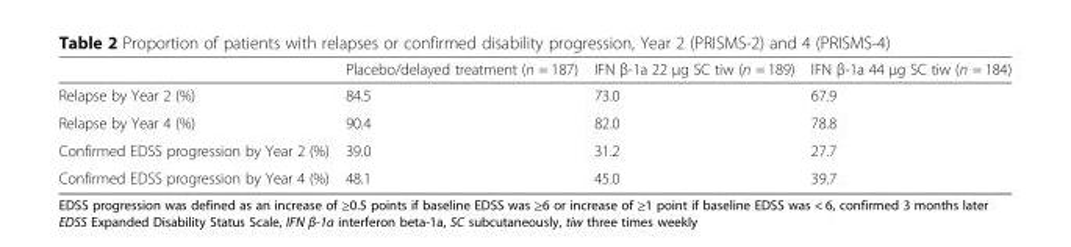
<table><thead><tr><td></td><td>Placebo/delayed treatment (n = 187)</td><td>IFN β-1a 22 μg SC tiw (n = 189)</td><td>IFN β-1a 44 μg SC tiw (n = 184)</td></tr></thead><tbody><tr><td>Relapse by Year 2 (%)</td><td>84.5</td><td>73.0</td><td>67.9</td></tr><tr><td>Relapse by Year 4 (%)</td><td>90.4</td><td>82.0</td><td>78.8</td></tr><tr><td>Confirmed EDSS progression by Year 2 (%)</td><td>39.0</td><td>31.2</td><td>27.7</td></tr><tr><td>Confirmed EDSS progression by Year 4 (%)</td><td>48.1</td><td>45.0</td><td>39.7</td></tr></tbody></table>